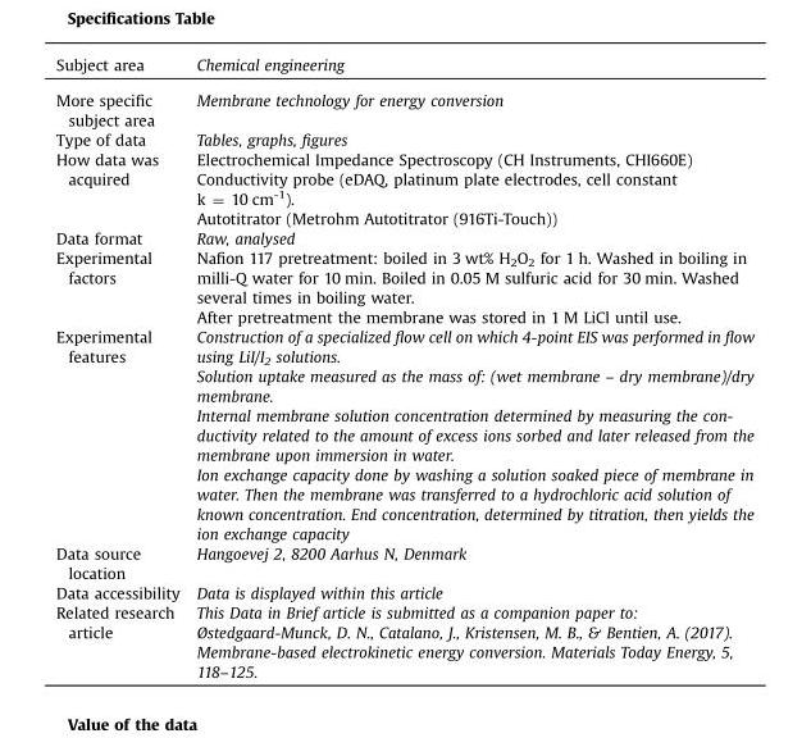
<table><thead><tr><td>Subject area</td><td>Chemical engineering</td></tr></thead><tbody><tr><td>More specific subject area</td><td>Membrane technology for energy conversion</td></tr><tr><td>Type of data</td><td>Tables, graphs, figures</td></tr><tr><td>How data was acquired</td><td>Electrochemical Impedance Spectroscopy (CH Instruments, CHI660E) Conductivity probe (eDAQ, platinum plate electrodes, cell constant k = 10 cm<sup>-1</sup>). Autotitrator (Metrohm Autotitrator (916Ti-Touch))</td></tr><tr><td>Data format</td><td>Raw, analysed</td></tr><tr><td>Experimental factors</td><td>Nafion 117 pretreatment: boiled in 3 wt% H<sub>2</sub>O<sub>2</sub> for 1 h. Washed in boiling in milli-Q water for 10 min. Boiled in 0.05 M sulfuric acid for 30 min. Washed several times in boiling water. After pretreatment the membrane was stored in 1 M LiCl until use.</td></tr><tr><td>Experimental features</td><td>Construction of a specialized flow cell on which 4-point EIS was performed in flow using LiI/I2 solutions. Solution uptake measured as the mass of: (wet membrane – dry membrane)/dry membrane. Internal membrane solution concentration determined by measuring the con- ductivity related to the amount of excess ions sorbed and later released from the membrane upon immersion in water. Ion exchange capacity done by washing a solution soaked piece of membrane in water. Then the membrane was transferred to a hydrochloric acid solution of known concentration. End concentration, determined by titration, then yields the ion exchange capacity</td></tr><tr><td>Data source location</td><td>Hangoevej 2, 8200 Aarhus N, Denmark</td></tr><tr><td>Data accessibility</td><td>Data is displayed within this article</td></tr><tr><td>Related research article</td><td>This Data in Brief article is submitted as a companion paper to: Østedgaard-Munck, D. N., Catalano, J., Kristensen, M. B., &amp; Bentien, A. (2017). Membrane-based electrokinetic energy conversion. Materials Today Energy, 5, 118–125.</td></tr></tbody></table>